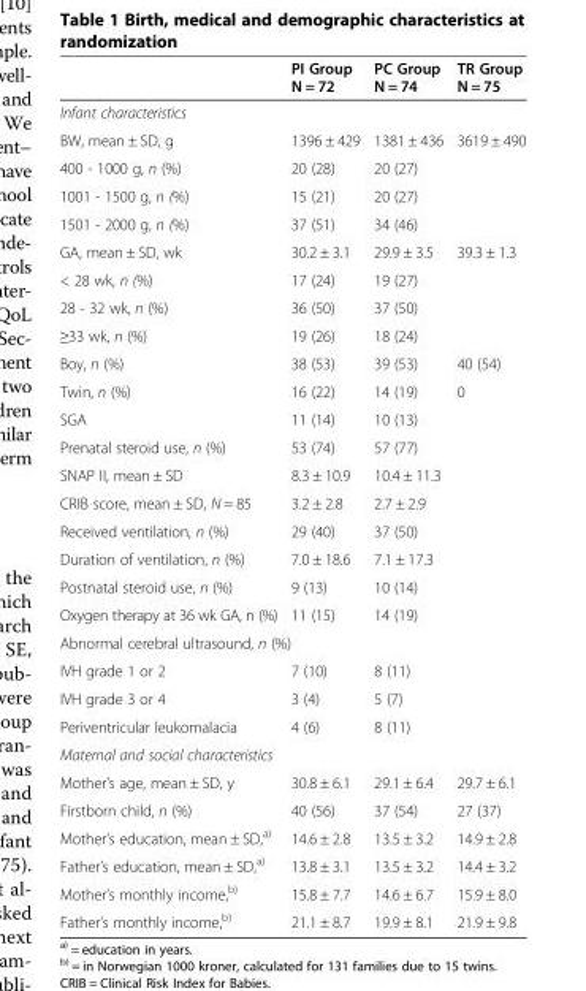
<table><thead><tr><td></td><td>PI Group N = 72</td><td>PC Group N = 74</td><td>TR Group N = 75</td></tr></thead><tbody><tr><td colspan="4">Infant characteristics</td></tr><tr><td>BW, mean ± SD, g</td><td>1396 ± 429</td><td>1381 ± 436</td><td>3619 ± 490</td></tr><tr><td>400 - 1000 g, n (%)</td><td>20 (28)</td><td>20 (27)</td><td></td></tr><tr><td>1001 - 1500 g, n (%)</td><td>15 (21)</td><td>20 (27)</td><td></td></tr><tr><td>1501 - 2000 g, n (%)</td><td>37 (51)</td><td>34 (46)</td><td></td></tr><tr><td>GA, mean ± SD, wk</td><td>30.2 ± 3.1</td><td>29.9 ± 3.5</td><td>39.3 ± 1.3</td></tr><tr><td>&lt; 28 wk, n (%)</td><td>17 (24)</td><td>19 (27)</td><td></td></tr><tr><td>28 - 32 wk, n (%)</td><td>36 (50)</td><td>37 (50)</td><td></td></tr><tr><td>≥33 wk, n (%)</td><td>19 (26)</td><td>18 (24)</td><td></td></tr><tr><td>Boy, n (%)</td><td>38 (53)</td><td>39 (53)</td><td>40 (54)</td></tr><tr><td>Twin, n (%)</td><td>16 (22)</td><td>14 (19)</td><td>0</td></tr><tr><td>SGA</td><td>11 (14)</td><td>10 (13)</td><td></td></tr><tr><td>Prenatal steroid use, n (%)</td><td>53 (74)</td><td>57 (77)</td><td></td></tr><tr><td>SNAP II, mean ± SD</td><td>8.3 ± 10.9</td><td>10.4 ± 11.3</td><td></td></tr><tr><td>CRIB score, mean ± SD, N = 85</td><td>3.2 ± 2.8</td><td>2.7 ± 2.9</td><td></td></tr><tr><td>Received ventilation, n (%)</td><td>29 (40)</td><td>37 (50)</td><td></td></tr><tr><td>Duration of ventilation, n (%)</td><td>7.0 ± 18.6</td><td>7.1 ± 17.3</td><td></td></tr><tr><td>Postnatal steroid use, n (%)</td><td>9 (13)</td><td>10 (14)</td><td></td></tr><tr><td>Oxygen therapy at 36 wk GA, n (%)</td><td>11 (15)</td><td>14 (19)</td><td></td></tr><tr><td colspan="4">Abnormal cerebral ultrasound, n (%)</td></tr><tr><td>IVH grade 1 or 2</td><td>7 (10)</td><td>8 (11)</td><td></td></tr><tr><td>IVH grade 3 or 4</td><td>3 (4)</td><td>5 (7)</td><td></td></tr><tr><td>Periventricular leukomalacia</td><td>4 (6)</td><td>8 (11)</td><td></td></tr><tr><td colspan="4">Maternal and social characteristics</td></tr><tr><td>Mother’s age, mean ± SD, y</td><td>30.8 ± 6.1</td><td>29.1 ± 6.4</td><td>29.7 ± 6.1</td></tr><tr><td>Firstborn child, n (%)</td><td>40 (56)</td><td>37 (54)</td><td>27 (37)</td></tr><tr><td>Mother’s education, mean ± SD,<sup>a)</sup></td><td>14.6 ± 2.8</td><td>13.5 ± 3.2</td><td>14.9 ± 2.8</td></tr><tr><td>Father’s education, mean ± SD,<sup>a)</sup></td><td>13.8 ± 3.1</td><td>13.5 ± 3.2</td><td>14.4 ± 3.2</td></tr><tr><td>Mother’s monthly income,<sup>b)</sup></td><td>15.8 ± 7.7</td><td>14.6 ± 6.7</td><td>15.9 ± 8.0</td></tr><tr><td>Father’s monthly income,<sup>b)</sup></td><td>21.1 ± 8.7</td><td>19.9 ± 8.1</td><td>21.9 ± 9.8</td></tr></tbody></table>